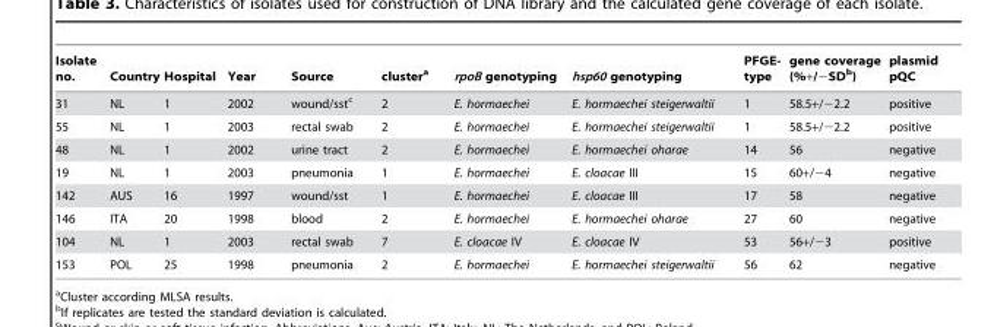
<table><thead><tr><td>Isolate no.</td><td>Country</td><td>Hospital</td><td>Year</td><td>Source</td><td>cluster<sup>a</sup></td><td>rpoB genotyping</td><td>hsp60 genotyping</td><td>PFGE- type</td><td>gene coverage (%+/−SD<sup>b</sup>)</td><td>plasmid pQC</td></tr></thead><tbody><tr><td>31</td><td>NL</td><td>1</td><td>2002</td><td>wound/sst<sup>c</sup></td><td>2</td><td>E. hormaechei</td><td>E. hormaechei steigerwaltii</td><td>1</td><td>58.5+/−2.2</td><td>positive</td></tr><tr><td>55</td><td>NL</td><td>1</td><td>2003</td><td>rectal swab</td><td>2</td><td>E. hormaechei</td><td>E. hormaechei steigerwaltii</td><td>1</td><td>58.5+/−2.2</td><td>positive</td></tr><tr><td>48</td><td>NL</td><td>1</td><td>2002</td><td>urine tract</td><td>2</td><td>E. hormaechei</td><td>E. hormaechei oharae</td><td>14</td><td>56</td><td>negative</td></tr><tr><td>19</td><td>NL</td><td>1</td><td>2003</td><td>pneumonia</td><td>1</td><td>E. hormaechei</td><td>E. cloacae III</td><td>15</td><td>60+/−4</td><td>negative</td></tr><tr><td>142</td><td>AUS</td><td>16</td><td>1997</td><td>wound/sst</td><td>1</td><td>E. hormaechei</td><td>E. cloacae III</td><td>17</td><td>58</td><td>negative</td></tr><tr><td>146</td><td>ITA</td><td>20</td><td>1998</td><td>blood</td><td>2</td><td>E. hormaechei</td><td>E. hormaechei oharae</td><td>27</td><td>60</td><td>negative</td></tr><tr><td>104</td><td>NL</td><td>1</td><td>2003</td><td>rectal swab</td><td>7</td><td>E. cloacae IV</td><td>E. cloacae IV</td><td>53</td><td>56+/−3</td><td>positive</td></tr><tr><td>153</td><td>POL</td><td>25</td><td>1998</td><td>pneumonia</td><td>2</td><td>E. hormaechei</td><td>E. hormaechei steigerwaltii</td><td>56</td><td>62</td><td>negative</td></tr></tbody></table>